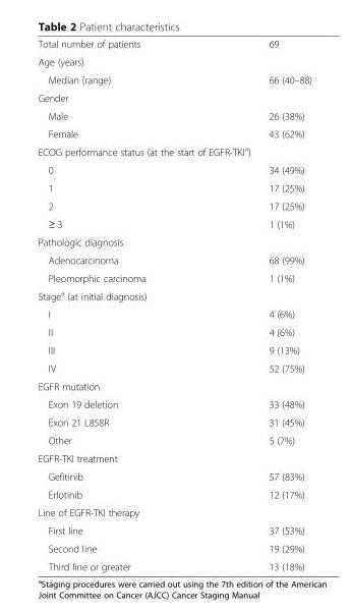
<table><tbody><tr><td>Total number of patients</td><td>69</td></tr><tr><td colspan="2">Age (years)</td></tr><tr><td>Median (range)</td><td>66 (40–88)</td></tr><tr><td colspan="2">Gender</td></tr><tr><td>Male</td><td>26 (38%)</td></tr><tr><td>Female</td><td>43 (62%)</td></tr><tr><td colspan="2">ECOG performance status (at the start of EGFR-TKI<sup>a</sup>)</td></tr><tr><td>0</td><td>34 (49%)</td></tr><tr><td>1</td><td>17 (25%)</td></tr><tr><td>2</td><td>17 (25%)</td></tr><tr><td>≥ 3</td><td>1 (1%)</td></tr><tr><td colspan="2">Pathologic diagnosis</td></tr><tr><td>Adenocarcinoma</td><td>68 (99%)</td></tr><tr><td>Pleomorphic carcinoma</td><td>1 (1%)</td></tr><tr><td colspan="2">Stage<sup>a</sup> (at initial diagnosis)</td></tr><tr><td>I</td><td>4 (6%)</td></tr><tr><td>II</td><td>4 (6%)</td></tr><tr><td>III</td><td>9 (13%)</td></tr><tr><td>IV</td><td>52 (75%)</td></tr><tr><td colspan="2">EGFR mutation</td></tr><tr><td>Exon 19 deletion</td><td>33 (48%)</td></tr><tr><td>Exon 21 L858R</td><td>31 (45%)</td></tr><tr><td>Other</td><td>5 (7%)</td></tr><tr><td colspan="2">EGFR-TKI treatment</td></tr><tr><td>Gefitinib</td><td>57 (83%)</td></tr><tr><td>Erlotinib</td><td>12 (17%)</td></tr><tr><td colspan="2">Line of EGFR-TKI therapy</td></tr><tr><td>First line</td><td>37 (53%)</td></tr><tr><td>Second line</td><td>19 (29%)</td></tr><tr><td>Third line or greater</td><td>13 (18%)</td></tr></tbody></table>